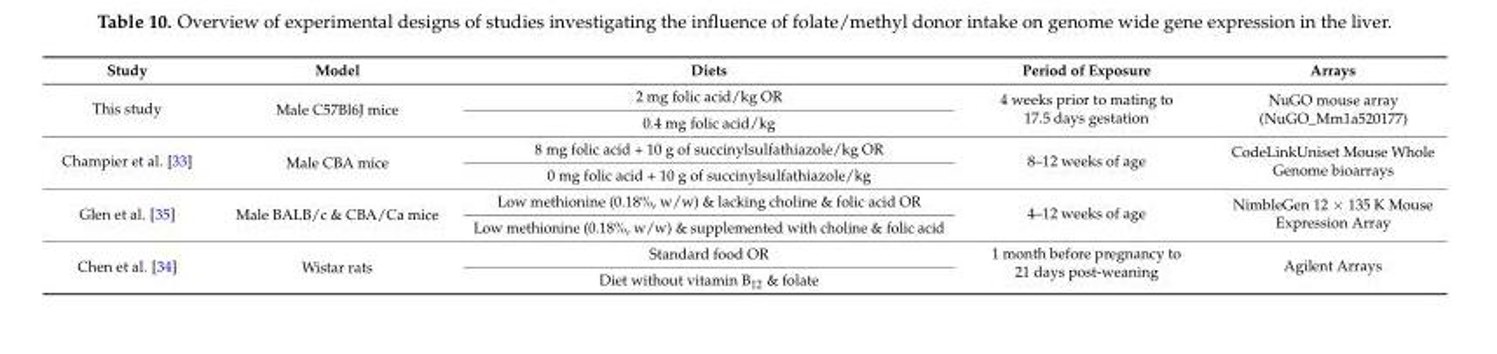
<table><thead><tr><td>Study</td><td>Model</td><td>Diets</td><td>Period of Exposure</td><td>Arrays</td></tr></thead><tbody><tr><td rowspan="2">This study</td><td rowspan="2">Male C57Bl6J mice</td><td>2 mg folic acid/kg OR</td><td rowspan="2">4 weeks prior to mating to 17.5 days gestation</td><td rowspan="2">NuGO mouse array (NuGO_Mm1a520177)</td></tr><tr><td>0.4 mg folic acid/kg</td></tr><tr><td rowspan="2">Champier et al. [33]</td><td rowspan="2">Male CBA mice</td><td>8 mg folic acid + 10 g of succinylsulfathiazole/kg OR</td><td rowspan="2">8–12 weeks of age</td><td rowspan="2">CodeLinkUniset Mouse Whole Genome bioarrays</td></tr><tr><td>0 mg folic acid + 10 g of succinylsulfathiazole/kg</td></tr><tr><td rowspan="2">Glen et al. [35]</td><td rowspan="2">Male BALB/c &amp; CBA/Ca mice</td><td>Low methionine (0.18%, w/w) &amp; lacking choline &amp; folic acid OR</td><td rowspan="2">4–12 weeks of age</td><td rowspan="2">NimbleGen 12 × 135 K Mouse Expression Array</td></tr><tr><td>Low methionine (0.18%, w/w) &amp; supplemented with choline &amp; folic acid</td></tr><tr><td rowspan="2">Chen et al. [34]</td><td rowspan="2">Wistar rats</td><td>Standard food OR</td><td rowspan="2">1 month before pregnancy to 21 days post-weaning</td><td rowspan="2">Agilent Arrays</td></tr><tr><td>Diet without vitamin B<sub>12</sub> &amp; folate</td></tr></tbody></table>